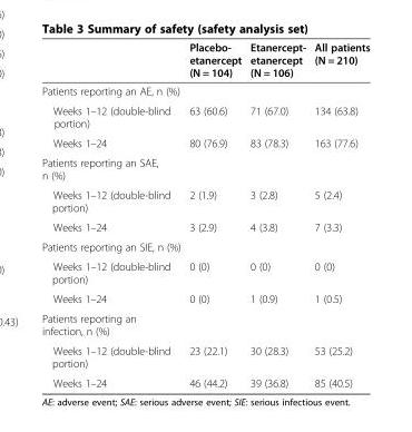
<table><thead><tr><td></td><td>Placebo- etanercept (N = 104)</td><td>Etanercept- etanercept (N = 106)</td><td>All patients (N = 210)</td></tr></thead><tbody><tr><td colspan="4">Patients reporting an AE, n (%)</td></tr><tr><td>Weeks 1–12 (double-blind portion)</td><td>63 (60.6)</td><td>71 (67.0)</td><td>134 (63.8)</td></tr><tr><td>Weeks 1–24</td><td>80 (76.9)</td><td>83 (78.3)</td><td>163 (77.6)</td></tr><tr><td colspan="4">Patients reporting an SAE, n (%)</td></tr><tr><td>Weeks 1–12 (double-blind portion)</td><td>2 (1.9)</td><td>3 (2.8)</td><td>5 (2.4)</td></tr><tr><td>Weeks 1–24</td><td>3 (2.9)</td><td>4 (3.8)</td><td>7 (3.3)</td></tr><tr><td colspan="4">Patients reporting an SIE, n (%)</td></tr><tr><td>Weeks 1–12 (double-blind portion)</td><td>0 (0)</td><td>0 (0)</td><td>0 (0)</td></tr><tr><td>Weeks 1–24</td><td>0 (0)</td><td>1 (0.9)</td><td>1 (0.5)</td></tr><tr><td colspan="4">Patients reporting an infection, n (%)</td></tr><tr><td>Weeks 1–12 (double-blind portion)</td><td>23 (22.1)</td><td>30 (28.3)</td><td>53 (25.2)</td></tr><tr><td>Weeks 1–24</td><td>46 (44.2)</td><td>39 (36.8)</td><td>85 (40.5)</td></tr></tbody></table>